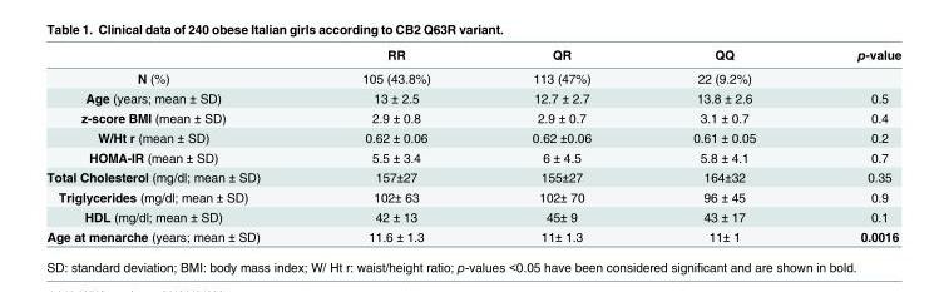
<table><thead><tr><td></td><td>RR</td><td>QR</td><td>QQ</td><td>p-value</td></tr></thead><tbody><tr><td>N (%)</td><td>105 (43.8%)</td><td>113 (47%)</td><td>22 (9.2%)</td><td></td></tr><tr><td>Age (years; mean ± SD)</td><td>13 ± 2.5</td><td>12.7 ± 2.7</td><td>13.8 ± 2.6</td><td>0.5</td></tr><tr><td>z-score BMI (mean ± SD)</td><td>2.9 ± 0.8</td><td>2.9 ± 0.7</td><td>3.1 ± 0.7</td><td>0.4</td></tr><tr><td>W/Ht r (mean ± SD)</td><td>0.62 ± 0.06</td><td>0.62 ±0.06</td><td>0.61 ± 0.05</td><td>0.2</td></tr><tr><td>HOMA-IR (mean ± SD)</td><td>5.5 ± 3.4</td><td>6 ± 4.5</td><td>5.8 ± 4.1</td><td>0.7</td></tr><tr><td>Total Cholesterol (mg/dl; mean ± SD)</td><td>157±27</td><td>155±27</td><td>164±32</td><td>0.35</td></tr><tr><td>Triglycerides (mg/dl; mean ± SD)</td><td>102± 63</td><td>102± 70</td><td>96 ± 45</td><td>0.9</td></tr><tr><td>HDL (mg/dl; mean ± SD)</td><td>42 ± 13</td><td>45± 9</td><td>43 ± 17</td><td>0.1</td></tr><tr><td>Age at menarche (years; mean ± SD)</td><td>11.6 ± 1.3</td><td>11± 1.3</td><td>11± 1</td><td>0.0016</td></tr></tbody></table>